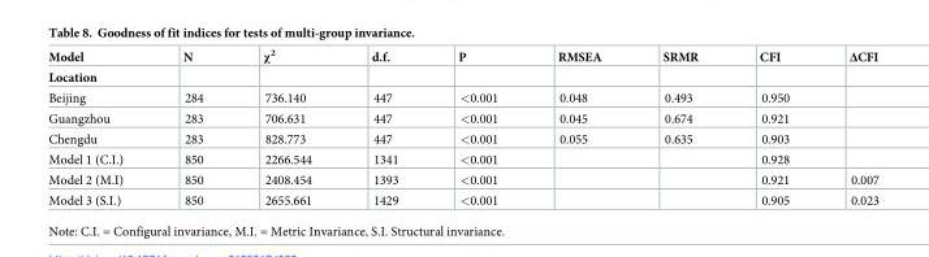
<table><thead><tr><td>Model</td><td>N</td><td>χ<sup>2</sup></td><td>d.f.</td><td>P</td><td>RMSEA</td><td>SRMR</td><td>CFI</td><td>ΔCFI</td></tr></thead><tbody><tr><td colspan="9">Location</td></tr><tr><td>Beijing</td><td>284</td><td>736.140</td><td>447</td><td>&lt;0.001</td><td>0.048</td><td>0.493</td><td>0.950</td><td></td></tr><tr><td>Guangzhou</td><td>283</td><td>706.631</td><td>447</td><td>&lt;0.001</td><td>0.045</td><td>0.674</td><td>0.921</td><td></td></tr><tr><td>Chengdu</td><td>283</td><td>828.773</td><td>447</td><td>&lt;0.001</td><td>0.055</td><td>0.635</td><td>0.903</td><td></td></tr><tr><td>Model 1 (C.I.)</td><td>850</td><td>2266.544</td><td>1341</td><td>&lt;0.001</td><td></td><td></td><td>0.928</td><td></td></tr><tr><td>Model 2 (M.I)</td><td>850</td><td>2408.454</td><td>1393</td><td>&lt;0.001</td><td></td><td></td><td>0.921</td><td>0.007</td></tr><tr><td>Model 3 (S.I.)</td><td>850</td><td>2655.661</td><td>1429</td><td>&lt;0.001</td><td></td><td></td><td>0.905</td><td>0.023</td></tr></tbody></table>